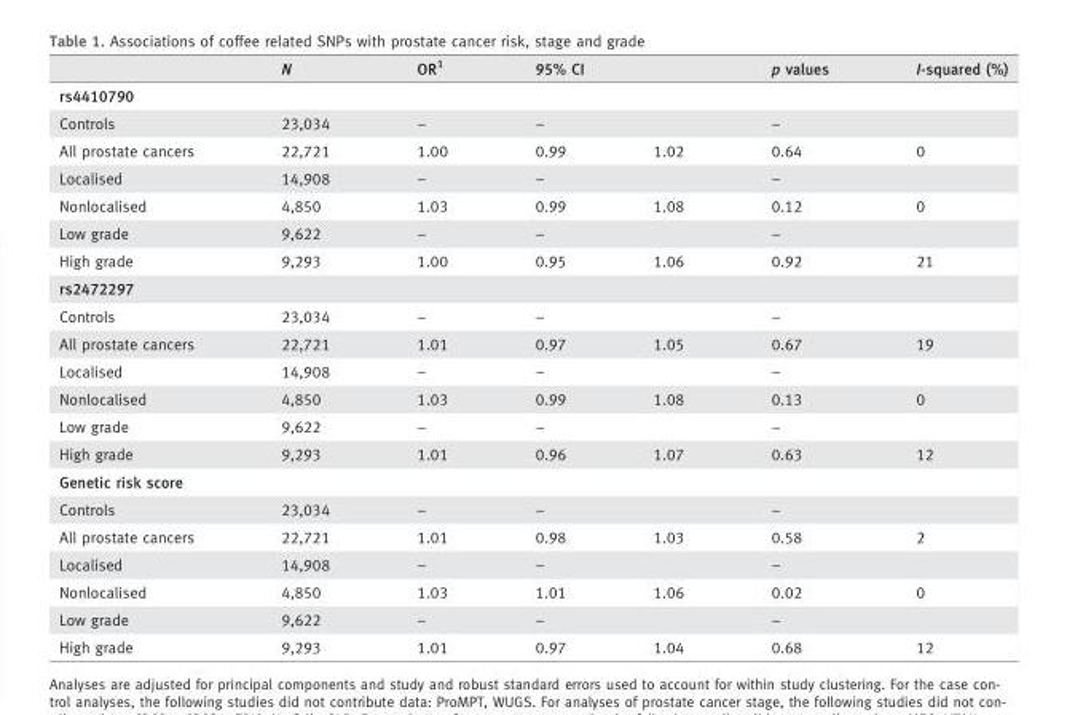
<table><thead><tr><td rowspan="4">rs4410790 Controls All prostate cancers</td><td rowspan="4">N 23,034 22,721</td><td rowspan="4">OR1 – 1.00</td><td rowspan="3" colspan="2">95% CI –</td><td rowspan="4">p values – 0.64</td><td rowspan="4">I-squared (%) 0</td></tr><tr></tr><tr></tr><tr><td>0.99</td><td>1.02</td></tr></thead><tbody><tr><td>Localised</td><td>14,908</td><td>–</td><td colspan="2">–</td><td>–</td><td></td></tr><tr><td>Nonlocalised</td><td>4,850</td><td>1.03</td><td>0.99</td><td>1.08</td><td>0.12</td><td>0</td></tr><tr><td>Low grade</td><td>9,622</td><td>–</td><td colspan="2">–</td><td>–</td><td></td></tr><tr><td>High grade</td><td>9,293</td><td>1.00</td><td>0.95</td><td>1.06</td><td>0.92</td><td>21</td></tr><tr><td colspan="7">rs2472297</td></tr><tr><td>Controls</td><td>23,034</td><td>–</td><td colspan="2">–</td><td>–</td><td></td></tr><tr><td>All prostate cancers</td><td>22,721</td><td>1.01</td><td>0.97</td><td>1.05</td><td>0.67</td><td>19</td></tr><tr><td>Localised</td><td>14,908</td><td>–</td><td colspan="2">–</td><td>–</td><td></td></tr><tr><td>Nonlocalised</td><td>4,850</td><td>1.03</td><td>0.99</td><td>1.08</td><td>0.13</td><td>0</td></tr><tr><td>Low grade</td><td>9,622</td><td>–</td><td colspan="2">–</td><td>–</td><td></td></tr><tr><td>High grade</td><td>9,293</td><td>1.01</td><td>0.96</td><td>1.07</td><td>0.63</td><td>12</td></tr><tr><td colspan="7">Genetic risk score</td></tr><tr><td>Controls</td><td>23,034</td><td>–</td><td colspan="2">–</td><td>–</td><td></td></tr><tr><td>All prostate cancers</td><td>22,721</td><td>1.01</td><td>0.98</td><td>1.03</td><td>0.58</td><td>2</td></tr><tr><td>Localised</td><td>14,908</td><td>–</td><td colspan="2">–</td><td>–</td><td></td></tr><tr><td>Nonlocalised</td><td>4,850</td><td>1.03</td><td>1.01</td><td>1.06</td><td>0.02</td><td>0</td></tr><tr><td>Low grade</td><td>9,622</td><td>–</td><td colspan="2">–</td><td>–</td><td></td></tr><tr><td>High grade</td><td>9,293</td><td>1.01</td><td>0.97</td><td>1.04</td><td>0.68</td><td>12</td></tr></tbody></table>